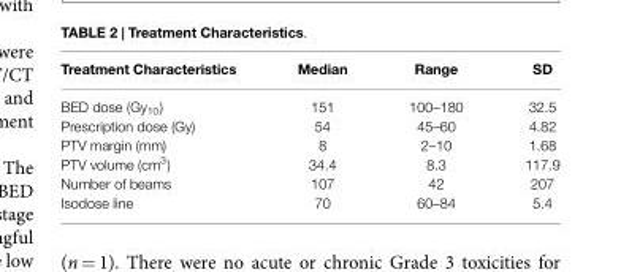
<table><thead><tr><td>Treatment Characteristics</td><td>Median</td><td>Range</td><td>SD</td></tr></thead><tbody><tr><td>BED dose (Gy<sub>10</sub>)</td><td>151</td><td>100–180</td><td>32.5</td></tr><tr><td>Prescription dose (Gy)</td><td>54</td><td>45–60</td><td>4.82</td></tr><tr><td>PTV margin (mm)</td><td>8</td><td>2–10</td><td>1.68</td></tr><tr><td>PTV volume (cm<sup>3</sup>)</td><td>34.4</td><td>8.3</td><td>117.9</td></tr><tr><td>Number of beams</td><td>107</td><td>42</td><td>207</td></tr><tr><td>Isodose line</td><td>70</td><td>60–84</td><td>5.4</td></tr></tbody></table>